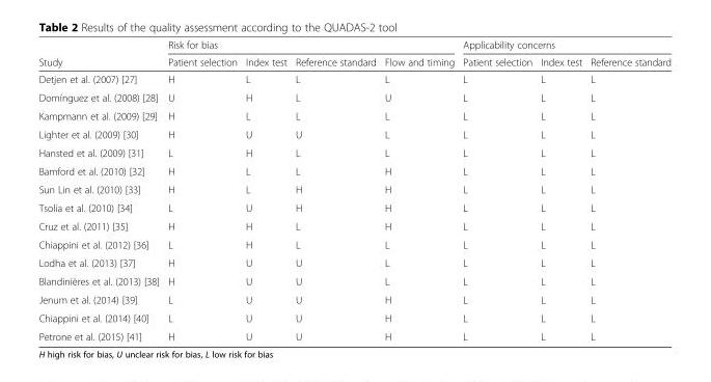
<table><thead><tr><td rowspan="2">Study</td><td colspan="4">Risk for bias</td><td colspan="3">Applicability concerns</td></tr><tr><td>Patient selection</td><td>Index test</td><td>Reference standard</td><td>Flow and timing</td><td>Patient selection</td><td>Index test</td><td>Reference standard</td></tr></thead><tbody><tr><td>Detjen et al. (2007) [27]</td><td>H</td><td>L</td><td>L</td><td>L</td><td>L</td><td>L</td><td>L</td></tr><tr><td>Domínguez et al. (2008) [28]</td><td>U</td><td>H</td><td>L</td><td>U</td><td>L</td><td>L</td><td>L</td></tr><tr><td>Kampmann et al. (2009) [29]</td><td>H</td><td>L</td><td>L</td><td>L</td><td>L</td><td>L</td><td>L</td></tr><tr><td>Lighter et al. (2009) [30]</td><td>H</td><td>U</td><td>U</td><td>L</td><td>L</td><td>L</td><td>L</td></tr><tr><td>Hansted et al. (2009) [31]</td><td>L</td><td>H</td><td>L</td><td>L</td><td>L</td><td>L</td><td>L</td></tr><tr><td>Bamford et al. (2010) [32]</td><td>H</td><td>L</td><td>L</td><td>H</td><td>L</td><td>L</td><td>L</td></tr><tr><td>Sun Lin et al. (2010) [33]</td><td>H</td><td>L</td><td>H</td><td>H</td><td>L</td><td>L</td><td>L</td></tr><tr><td>Tsolia et al. (2010) [34]</td><td>L</td><td>U</td><td>H</td><td>H</td><td>L</td><td>L</td><td>L</td></tr><tr><td>Cruz et al. (2011) [35]</td><td>H</td><td>H</td><td>L</td><td>H</td><td>L</td><td>L</td><td>L</td></tr><tr><td>Chiappini et al. (2012) [36]</td><td>L</td><td>H</td><td>L</td><td>L</td><td>L</td><td>L</td><td>L</td></tr><tr><td>Lodha et al. (2013) [37]</td><td>H</td><td>U</td><td>U</td><td>L</td><td>L</td><td>L</td><td>L</td></tr><tr><td>Blandinières et al. (2013) [38]</td><td>H</td><td>U</td><td>U</td><td>L</td><td>L</td><td>L</td><td>L</td></tr><tr><td>Jenum et al. (2014) [39]</td><td>L</td><td>U</td><td>U</td><td>H</td><td>L</td><td>L</td><td>L</td></tr><tr><td>Chiappini et al. (2014) [40]</td><td>L</td><td>U</td><td>U</td><td>H</td><td>L</td><td>L</td><td>L</td></tr><tr><td>Petrone et al. (2015) [41]</td><td>H</td><td>U</td><td>U</td><td>H</td><td>L</td><td>L</td><td>L</td></tr></tbody></table>